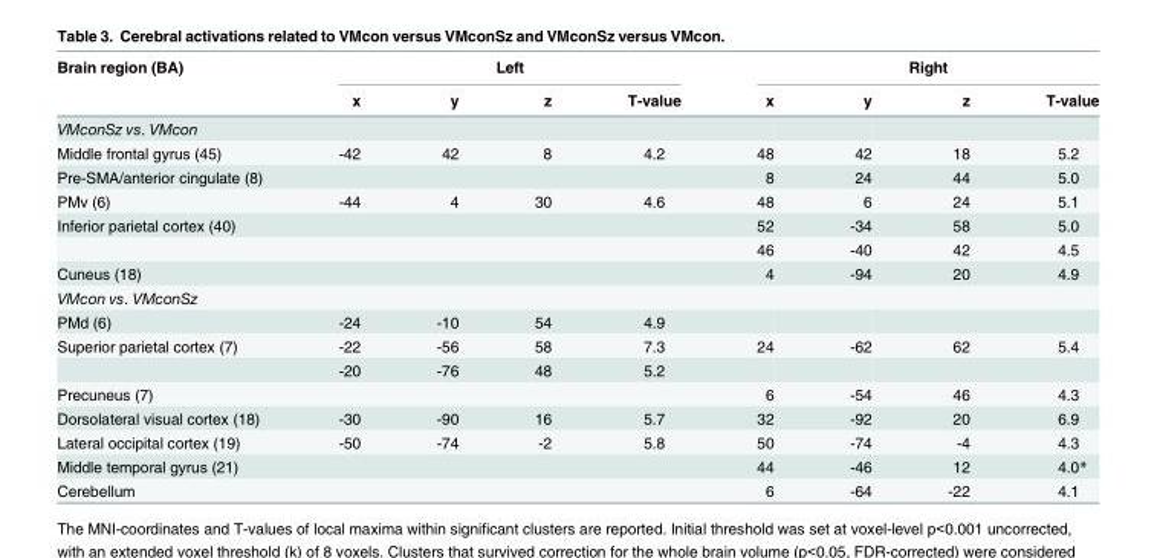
<table><thead><tr><td rowspan="2">Brain region (BA)</td><td colspan="4">Left</td><td colspan="4">Right</td></tr><tr><td>x</td><td>y</td><td>z</td><td>T-value</td><td>x</td><td>y</td><td>z</td><td>T-value</td></tr></thead><tbody><tr><td colspan="9">VMconSz vs. VMcon</td></tr><tr><td>Middle frontal gyrus (45)</td><td>-42</td><td>42</td><td>8</td><td>4.2</td><td>48</td><td>42</td><td>18</td><td>5.2</td></tr><tr><td>Pre-SMA/anterior cingulate (8)</td><td></td><td></td><td></td><td></td><td>8</td><td>24</td><td>44</td><td>5.0</td></tr><tr><td>PMv (6)</td><td>-44</td><td>4</td><td>30</td><td>4.6</td><td>48</td><td>6</td><td>24</td><td>5.1</td></tr><tr><td rowspan="2">Inferior parietal cortex (40)</td><td></td><td></td><td></td><td></td><td>52</td><td>-34</td><td>58</td><td>5.0</td></tr><tr><td></td><td></td><td></td><td></td><td>46</td><td>-40</td><td>42</td><td>4.5</td></tr><tr><td>Cuneus (18)</td><td></td><td></td><td></td><td></td><td>4</td><td>-94</td><td>20</td><td>4.9</td></tr><tr><td colspan="9">VMcon vs. VMconSz</td></tr><tr><td>PMd (6)</td><td>-24</td><td>-10</td><td>54</td><td>4.9</td><td></td><td></td><td></td><td></td></tr><tr><td rowspan="2">Superior parietal cortex (7)</td><td>-22</td><td>-56</td><td>58</td><td>7.3</td><td>24</td><td>-62</td><td>62</td><td>5.4</td></tr><tr><td>-20</td><td>-76</td><td>48</td><td>5.2</td><td></td><td></td><td></td><td></td></tr><tr><td>Precuneus (7)</td><td></td><td></td><td></td><td></td><td>6</td><td>-54</td><td>46</td><td>4.3</td></tr><tr><td>Dorsolateral visual cortex (18)</td><td>-30</td><td>-90</td><td>16</td><td>5.7</td><td>32</td><td>-92</td><td>20</td><td>6.9</td></tr><tr><td>Lateral occipital cortex (19)</td><td>-50</td><td>-74</td><td>-2</td><td>5.8</td><td>50</td><td>-74</td><td>-4</td><td>4.3</td></tr><tr><td>Middle temporal gyrus (21)</td><td></td><td></td><td></td><td></td><td>44</td><td>-46</td><td>12</td><td>4.0*</td></tr><tr><td>Cerebellum</td><td></td><td></td><td></td><td></td><td>6</td><td>-64</td><td>-22</td><td>4.1</td></tr></tbody></table>